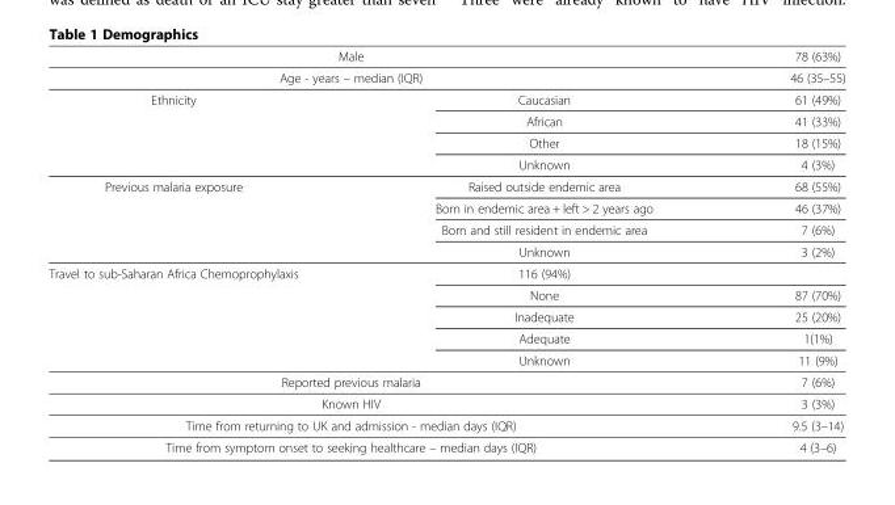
<table><tbody><tr><td colspan="2">Male</td><td>78 (63%)</td></tr><tr><td colspan="2">Age - years – median (IQR)</td><td>46 (35–55)</td></tr><tr><td rowspan="4">Ethnicity</td><td>Caucasian</td><td>61 (49%)</td></tr><tr><td>African</td><td>41 (33%)</td></tr><tr><td>Other</td><td>18 (15%)</td></tr><tr><td>Unknown</td><td>4 (3%)</td></tr><tr><td rowspan="4">Previous malaria exposure</td><td>Raised outside endemic area</td><td>68 (55%)</td></tr><tr><td>Born in endemic area + left &gt; 2 years ago</td><td>46 (37%)</td></tr><tr><td>Born and still resident in endemic area</td><td>7 (6%)</td></tr><tr><td>Unknown</td><td>3 (2%)</td></tr><tr><td rowspan="5">Travel to sub-Saharan Africa Chemoprophylaxis</td><td>116 (94%)</td><td></td></tr><tr><td>None</td><td>87 (70%)</td></tr><tr><td>Inadequate</td><td>25 (20%)</td></tr><tr><td>Adequate</td><td>1(1%)</td></tr><tr><td>Unknown</td><td>11 (9%)</td></tr><tr><td>Reported previous malaria</td><td></td><td>7 (6%)</td></tr><tr><td colspan="2">Known HIV</td><td>3 (3%)</td></tr><tr><td colspan="2">Time from returning to UK and admission - median days (IQR)</td><td>9.5 (3–14)</td></tr><tr><td colspan="2">Time from symptom onset to seeking healthcare – median days (IQR)</td><td>4 (3–6)</td></tr></tbody></table>